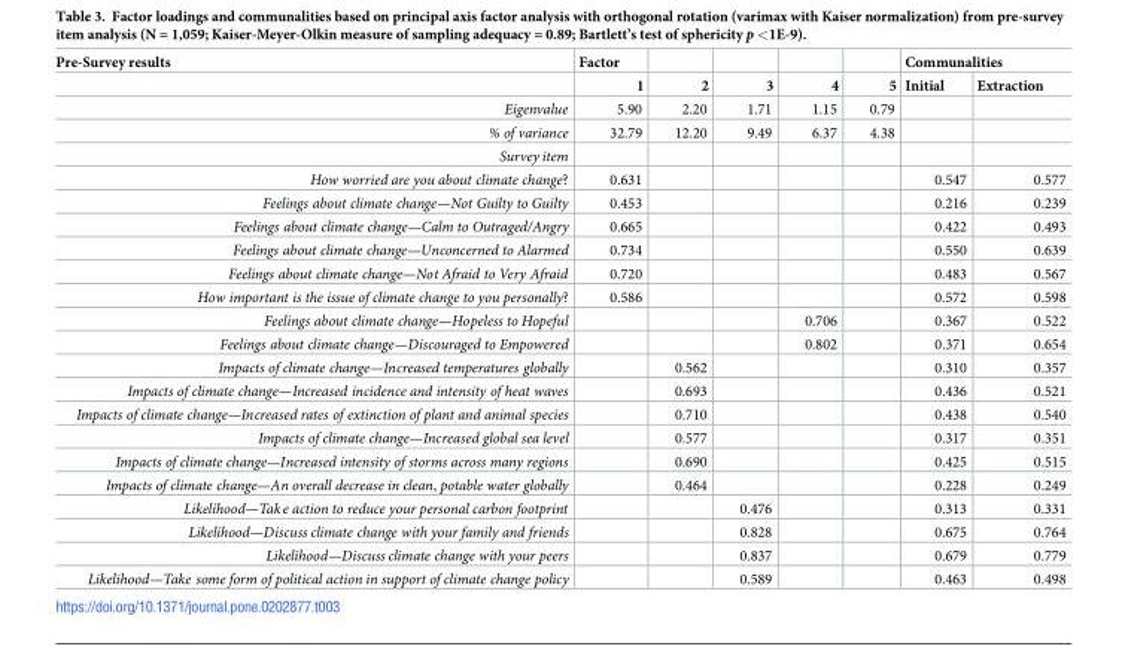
<table><thead><tr><td rowspan="2">Pre-Survey results</td><td rowspan="2">Factor 1</td><td rowspan="2">2</td><td rowspan="2">3</td><td rowspan="2">4</td><td rowspan="2">5</td><td colspan="2">Communalities</td></tr><tr><td>Initial</td><td>Extraction</td></tr></thead><tbody><tr><td>Eigenvalue</td><td>5.90</td><td>2.20</td><td>1.71</td><td>1.15</td><td>0.79</td><td></td><td></td></tr><tr><td>% of variance</td><td>32.79</td><td>12.20</td><td>9.49</td><td>6.37</td><td>4.38</td><td></td><td></td></tr><tr><td colspan="8">Survey item</td></tr><tr><td>How worried are you about climate change?</td><td>0.631</td><td></td><td></td><td></td><td></td><td>0.547</td><td>0.577</td></tr><tr><td>Feelings about climate change—Not Guilty to Guilty</td><td>0.453</td><td></td><td></td><td></td><td></td><td>0.216</td><td>0.239</td></tr><tr><td>Feelings about climate change—Calm to Outraged/Angry</td><td>0.665</td><td></td><td></td><td></td><td></td><td>0.422</td><td>0.493</td></tr><tr><td>Feelings about climate change—Unconcerned to Alarmed</td><td>0.734</td><td></td><td></td><td></td><td></td><td>0.550</td><td>0.639</td></tr><tr><td>Feelings about climate change—Not Afraid to Very Afraid</td><td>0.720</td><td></td><td></td><td></td><td></td><td>0.483</td><td>0.567</td></tr><tr><td>How important is the issue of climate change to you personally?</td><td>0.586</td><td></td><td></td><td></td><td></td><td>0.572</td><td>0.598</td></tr><tr><td>Feelings about climate change—Hopeless to Hopeful</td><td></td><td></td><td></td><td>0.706</td><td></td><td>0.367</td><td>0.522</td></tr><tr><td>Feelings about climate change—Discouraged to Empowered</td><td></td><td></td><td></td><td>0.802</td><td></td><td>0.371</td><td>0.654</td></tr><tr><td>Impacts of climate change—Increased temperatures globally</td><td></td><td>0.562</td><td></td><td></td><td></td><td>0.310</td><td>0.357</td></tr><tr><td>Impacts of climate change—Increased incidence and intensity of heat waves</td><td></td><td>0.693</td><td></td><td></td><td></td><td>0.436</td><td>0.521</td></tr><tr><td>Impacts of climate change—Increased rates of extinction of plant and animal species</td><td></td><td>0.710</td><td></td><td></td><td></td><td>0.438</td><td>0.540</td></tr><tr><td>Impacts of climate change—Increased global sea level</td><td></td><td>0.577</td><td></td><td></td><td></td><td>0.317</td><td>0.351</td></tr><tr><td>Impacts of climate change—Increased intensity of storms across many regions</td><td></td><td>0.690</td><td></td><td></td><td></td><td>0.425</td><td>0.515</td></tr><tr><td>Impacts of climate change—An overall decrease in clean, potable water globally</td><td></td><td>0.464</td><td></td><td></td><td></td><td>0.228</td><td>0.249</td></tr><tr><td>Likelihood—Take action to reduce your personal carbon footprint</td><td></td><td></td><td>0.476</td><td></td><td></td><td>0.313</td><td>0.331</td></tr><tr><td>Likelihood—Discuss climate change with your family and friends</td><td></td><td></td><td>0.828</td><td></td><td></td><td>0.675</td><td>0.764</td></tr><tr><td>Likelihood—Discuss climate change with your peers</td><td></td><td></td><td>0.837</td><td></td><td></td><td>0.679</td><td>0.779</td></tr><tr><td>Likelihood—Take some form of political action in support of climate change policy</td><td></td><td></td><td>0.589</td><td></td><td></td><td>0.463</td><td>0.498</td></tr></tbody></table>